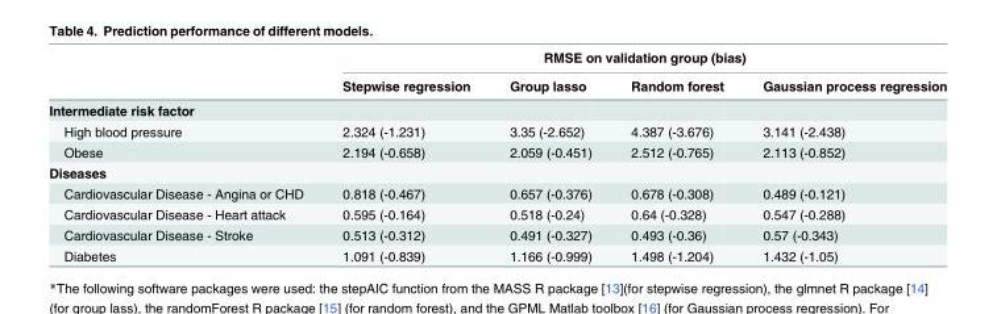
<table><thead><tr><td rowspan="2"></td><td colspan="4">RMSE on validation group (bias)</td></tr><tr><td>Stepwise regression</td><td>Group lasso</td><td>Random forest</td><td>Gaussian process regression</td></tr></thead><tbody><tr><td colspan="5">Intermediate risk factor</td></tr><tr><td>High blood pressure</td><td>2.324 (-1.231)</td><td>3.35 (-2.652)</td><td>4.387 (-3.676)</td><td>3.141 (-2.438)</td></tr><tr><td>Obese</td><td>2.194 (-0.658)</td><td>2.059 (-0.451)</td><td>2.512 (-0.765)</td><td>2.113 (-0.852)</td></tr><tr><td colspan="5">Diseases</td></tr><tr><td>Cardiovascular Disease - Angina or CHD</td><td>0.818 (-0.467)</td><td>0.657 (-0.376)</td><td>0.678 (-0.308)</td><td>0.489 (-0.121)</td></tr><tr><td>Cardiovascular Disease - Heart attack</td><td>0.595 (-0.164)</td><td>0.518 (-0.24)</td><td>0.64 (-0.328)</td><td>0.547 (-0.288)</td></tr><tr><td>Cardiovascular Disease - Stroke</td><td>0.513 (-0.312)</td><td>0.491 (-0.327)</td><td>0.493 (-0.36)</td><td>0.57 (-0.343)</td></tr><tr><td>Diabetes</td><td>1.091 (-0.839)</td><td>1.166 (-0.999)</td><td>1.498 (-1.204)</td><td>1.432 (-1.05)</td></tr></tbody></table>